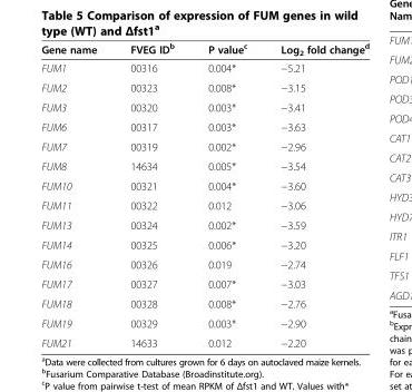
<table><thead><tr><td>Gene name</td><td>FVEG ID<sup>b</sup></td><td>P value<sup>c</sup></td><td>Log<sub>2</sub> fold change<sup>d</sup></td></tr></thead><tbody><tr><td>FUM1</td><td>00316</td><td>0.004*</td><td>−5.21</td></tr><tr><td>FUM2</td><td>00323</td><td>0.008*</td><td>−3.15</td></tr><tr><td>FUM3</td><td>00320</td><td>0.003*</td><td>−3.41</td></tr><tr><td>FUM6</td><td>00317</td><td>0.003*</td><td>−3.63</td></tr><tr><td>FUM7</td><td>00319</td><td>0.002*</td><td>−2.96</td></tr><tr><td>FUM8</td><td>14634</td><td>0.005*</td><td>−3.54</td></tr><tr><td>FUM10</td><td>00321</td><td>0.004*</td><td>−3.60</td></tr><tr><td>FUM11</td><td>00322</td><td>0.012</td><td>−3.06</td></tr><tr><td>FUM13</td><td>00324</td><td>0.002*</td><td>−3.59</td></tr><tr><td>FUM14</td><td>00325</td><td>0.006*</td><td>−3.20</td></tr><tr><td>FUM16</td><td>00326</td><td>0.019</td><td>−2.74</td></tr><tr><td>FUM17</td><td>00327</td><td>0.007*</td><td>−3.03</td></tr><tr><td>FUM18</td><td>00328</td><td>0.008*</td><td>−2.76</td></tr><tr><td>FUM19</td><td>00329</td><td>0.003*</td><td>−2.90</td></tr><tr><td>FUM21</td><td>14633</td><td>0.012</td><td>−2.20</td></tr></tbody></table>